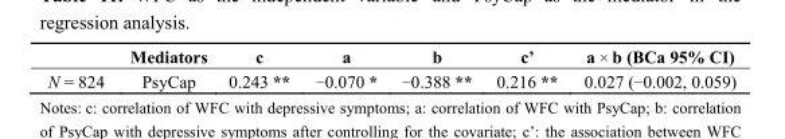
<table><thead><tr><td></td><td>Mediators</td><td>c</td><td>a</td><td>b</td><td>c’</td><td>a × b (BCa 95% CI)</td></tr></thead><tbody><tr><td>N = 824</td><td>PsyCap</td><td>0.243 **</td><td>−0.070 *</td><td>−0.388 **</td><td>0.216 **</td><td>0.027 (−0.002, 0.059)</td></tr></tbody></table>